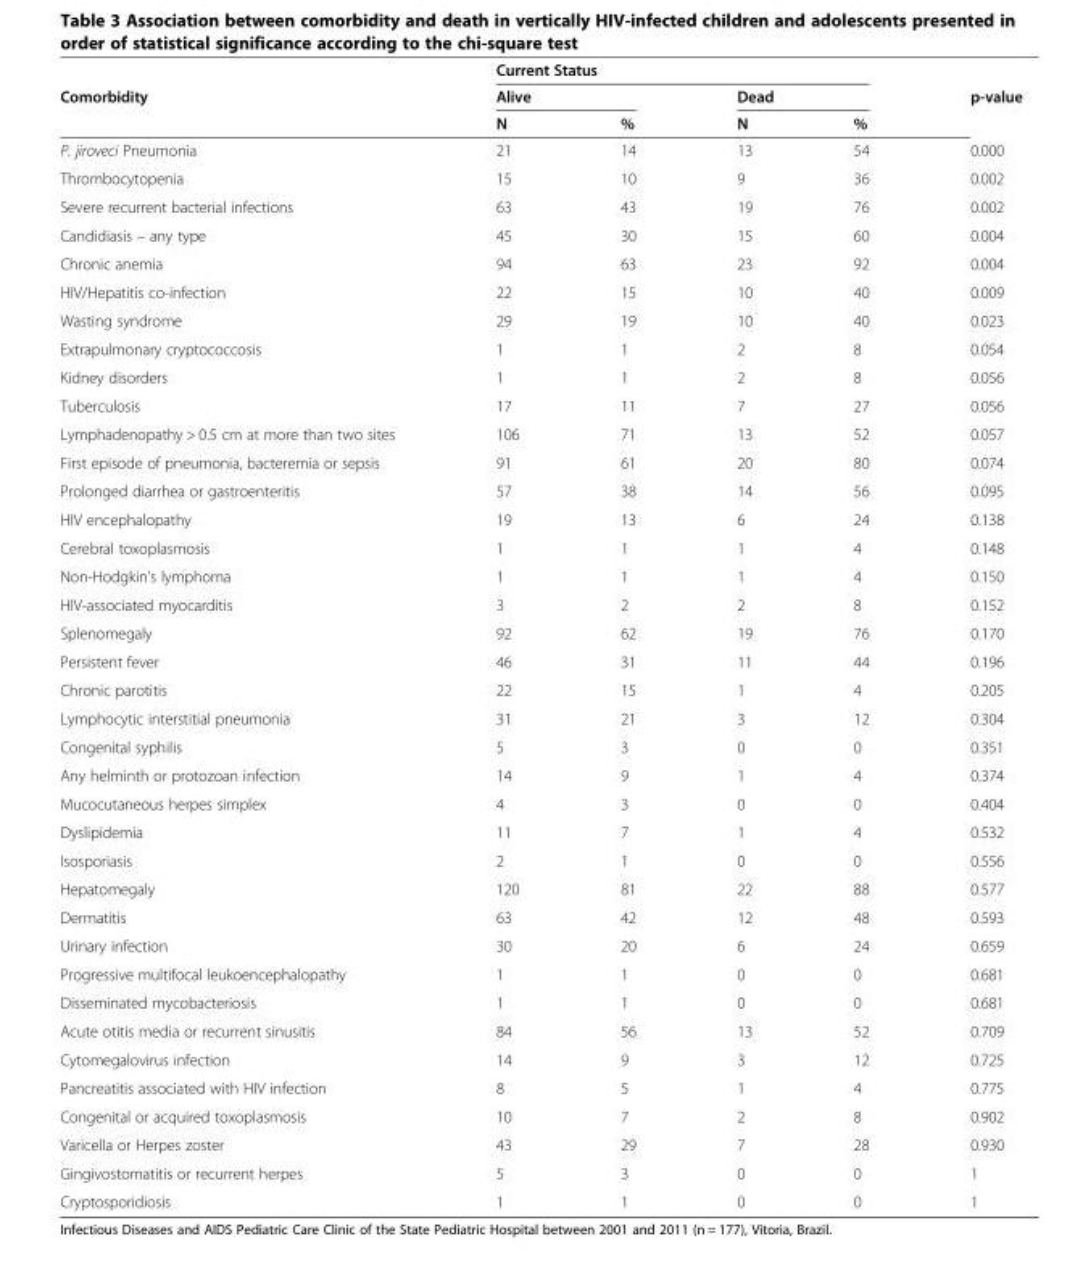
<table><thead><tr><td rowspan="3">Comorbidity</td><td colspan="4">Current Status</td><td rowspan="3">p-value</td></tr><tr><td colspan="2">Alive</td><td colspan="2">Dead</td></tr><tr><td>N</td><td>%</td><td>N</td><td>%</td></tr></thead><tbody><tr><td>P. jiroveci Pneumonia</td><td>21</td><td>14</td><td>13</td><td>54</td><td>0.000</td></tr><tr><td>Thrombocytopenia</td><td>15</td><td>10</td><td>9</td><td>36</td><td>0.002</td></tr><tr><td>Severe recurrent bacterial infections</td><td>63</td><td>43</td><td>19</td><td>76</td><td>0.002</td></tr><tr><td>Candidiasis – any type</td><td>45</td><td>30</td><td>15</td><td>60</td><td>0.004</td></tr><tr><td>Chronic anemia</td><td>94</td><td>63</td><td>23</td><td>92</td><td>0.004</td></tr><tr><td>HIV/Hepatitis co-infection</td><td>22</td><td>15</td><td>10</td><td>40</td><td>0.009</td></tr><tr><td>Wasting syndrome</td><td>29</td><td>19</td><td>10</td><td>40</td><td>0.023</td></tr><tr><td>Extrapulmonary cryptococcosis</td><td>1</td><td>1</td><td>2</td><td>8</td><td>0.054</td></tr><tr><td>Kidney disorders</td><td>1</td><td>1</td><td>2</td><td>8</td><td>0.056</td></tr><tr><td>Tuberculosis</td><td>17</td><td>11</td><td>7</td><td>27</td><td>0.056</td></tr><tr><td>Lymphadenopathy &gt; 0.5 cm at more than two sites</td><td>106</td><td>71</td><td>13</td><td>52</td><td>0.057</td></tr><tr><td>First episode of pneumonia, bacteremia or sepsis</td><td>91</td><td>61</td><td>20</td><td>80</td><td>0.074</td></tr><tr><td>Prolonged diarrhea or gastroenteritis</td><td>57</td><td>38</td><td>14</td><td>56</td><td>0.095</td></tr><tr><td>HIV encephalopathy</td><td>19</td><td>13</td><td>6</td><td>24</td><td>0.138</td></tr><tr><td>Cerebral toxoplasmosis</td><td>1</td><td>1</td><td>1</td><td>4</td><td>0.148</td></tr><tr><td>Non-Hodgkin’s lymphoma</td><td>1</td><td>1</td><td>1</td><td>4</td><td>0.150</td></tr><tr><td>HIV-associated myocarditis</td><td>3</td><td>2</td><td>2</td><td>8</td><td>0.152</td></tr><tr><td>Splenomegaly</td><td>92</td><td>62</td><td>19</td><td>76</td><td>0.170</td></tr><tr><td>Persistent fever</td><td>46</td><td>31</td><td>11</td><td>44</td><td>0.196</td></tr><tr><td>Chronic parotitis</td><td>22</td><td>15</td><td>1</td><td>4</td><td>0.205</td></tr><tr><td>Lymphocytic interstitial pneumonia</td><td>31</td><td>21</td><td>3</td><td>12</td><td>0.304</td></tr><tr><td>Congenital syphilis</td><td>5</td><td>3</td><td>0</td><td>0</td><td>0.351</td></tr><tr><td>Any helminth or protozoan infection</td><td>14</td><td>9</td><td>1</td><td>4</td><td>0.374</td></tr><tr><td>Mucocutaneous herpes simplex</td><td>4</td><td>3</td><td>0</td><td>0</td><td>0.404</td></tr><tr><td>Dyslipidemia</td><td>11</td><td>7</td><td>1</td><td>4</td><td>0.532</td></tr><tr><td>Isosporiasis</td><td>2</td><td>1</td><td>0</td><td>0</td><td>0.556</td></tr><tr><td>Hepatomegaly</td><td>120</td><td>81</td><td>22</td><td>88</td><td>0.577</td></tr><tr><td>Dermatitis</td><td>63</td><td>42</td><td>12</td><td>48</td><td>0.593</td></tr><tr><td>Urinary infection</td><td>30</td><td>20</td><td>6</td><td>24</td><td>0.659</td></tr><tr><td>Progressive multifocal leukoencephalopathy</td><td>1</td><td>1</td><td>0</td><td>0</td><td>0.681</td></tr><tr><td>Disseminated mycobacteriosis</td><td>1</td><td>1</td><td>0</td><td>0</td><td>0.681</td></tr><tr><td>Acute otitis media or recurrent sinusitis</td><td>84</td><td>56</td><td>13</td><td>52</td><td>0.709</td></tr><tr><td>Cytomegalovirus infection</td><td>14</td><td>9</td><td>3</td><td>12</td><td>0.725</td></tr><tr><td>Pancreatitis associated with HIV infection</td><td>8</td><td>5</td><td>1</td><td>4</td><td>0.775</td></tr><tr><td>Congenital or acquired toxoplasmosis</td><td>10</td><td>7</td><td>2</td><td>8</td><td>0.902</td></tr><tr><td>Varicella or Herpes zoster</td><td>43</td><td>29</td><td>7</td><td>28</td><td>0.930</td></tr><tr><td>Gingivostomatitis or recurrent herpes</td><td>5</td><td>3</td><td>0</td><td>0</td><td>1</td></tr><tr><td>Cryptosporidiosis</td><td>1</td><td>1</td><td>0</td><td>0</td><td>1</td></tr></tbody></table>